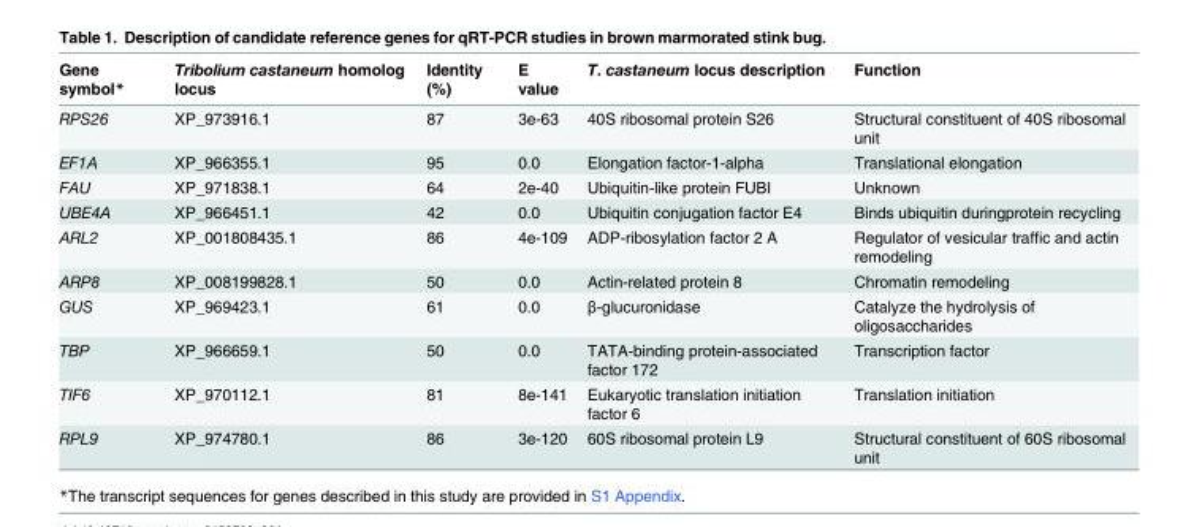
<table><thead><tr><td>Gene symbol*</td><td>Tribolium castaneum homolog locus</td><td>Identity (%)</td><td>E value</td><td>T. castaneum locus description</td><td>Function</td></tr></thead><tbody><tr><td>RPS26</td><td>XP_973916.1</td><td>87</td><td>3e-63</td><td>40S ribosomal protein S26</td><td>Structural constituent of 40S ribosomal unit</td></tr><tr><td>EF1A</td><td>XP_966355.1</td><td>95</td><td>0.0</td><td>Elongation factor-1-alpha</td><td>Translational elongation</td></tr><tr><td>FAU</td><td>XP_971838.1</td><td>64</td><td>2e-40</td><td>Ubiquitin-like protein FUBI</td><td>Unknown</td></tr><tr><td>UBE4A</td><td>XP_966451.1</td><td>42</td><td>0.0</td><td>Ubiquitin conjugation factor E4</td><td>Binds ubiquitin duringprotein recycling</td></tr><tr><td>ARL2</td><td>XP_001808435.1</td><td>86</td><td>4e-109</td><td>ADP-ribosylation factor 2 A</td><td>Regulator of vesicular traffic and actin remodeling</td></tr><tr><td>ARP8</td><td>XP_008199828.1</td><td>50</td><td>0.0</td><td>Actin-related protein 8</td><td>Chromatin remodeling</td></tr><tr><td>GUS</td><td>XP_969423.1</td><td>61</td><td>0.0</td><td>β-glucuronidase</td><td>Catalyze the hydrolysis of oligosaccharides</td></tr><tr><td>TBP</td><td>XP_966659.1</td><td>50</td><td>0.0</td><td>TATA-binding protein-associated factor 172</td><td>Transcription factor</td></tr><tr><td>TIF6</td><td>XP_970112.1</td><td>81</td><td>8e-141</td><td>Eukaryotic translation initiation factor 6</td><td>Translation initiation</td></tr><tr><td>RPL9</td><td>XP_974780.1</td><td>86</td><td>3e-120</td><td>60S ribosomal protein L9</td><td>Structural constituent of 60S ribosomal unit</td></tr></tbody></table>